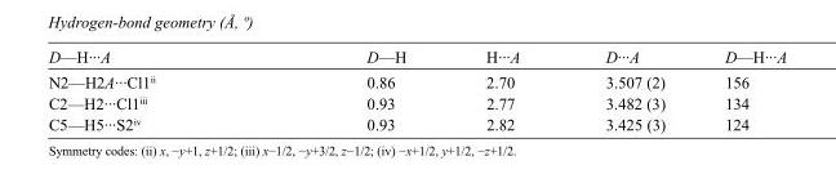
<table><tbody><tr><td>D—H···A</td><td>D—H</td><td>H···A</td><td>D···A</td><td>D—H···A</td></tr><tr><td>N2—H2A···Cl1<sup>ii</sup></td><td>0.86</td><td>2.70</td><td>3.507 (2)</td><td>156</td></tr><tr><td>C2—H2···Cl1<sup>iii</sup></td><td>0.93</td><td>2.77</td><td>3.482 (3)</td><td>134</td></tr><tr><td>C5—H5···S2<sup>iv</sup></td><td>0.93</td><td>2.82</td><td>3.425 (3)</td><td>124</td></tr></tbody></table>